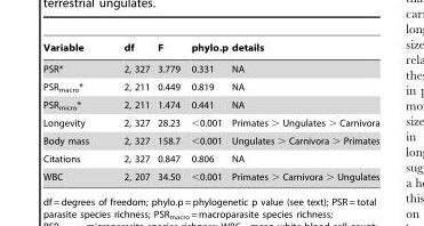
<table><thead><tr><td>Variable</td><td>df</td><td>F</td><td>phylo.p</td><td>details</td></tr></thead><tbody><tr><td>PSR*</td><td>2, 327</td><td>3.779</td><td>0.331</td><td>NA</td></tr><tr><td>PSR<sub>macro</sub>*</td><td>2, 211</td><td>0.449</td><td>0.819</td><td>NA</td></tr><tr><td>PSR<sub>micro</sub>*</td><td>2, 211</td><td>1.474</td><td>0.441</td><td>NA</td></tr><tr><td>Longevity</td><td>2, 327</td><td>28.23</td><td>&lt;0.001</td><td>Primates &gt; Ungulates &gt; Carnivora</td></tr><tr><td>Body mass</td><td>2, 327</td><td>158.7</td><td>&lt;0.001</td><td>Ungulates &gt; Carnivora &gt; Primates</td></tr><tr><td>Citations</td><td>2, 327</td><td>0.847</td><td>0.806</td><td>NA</td></tr><tr><td>WBC</td><td>2, 207</td><td>34.50</td><td>&lt;0.001</td><td>Primates &gt; Carnivora &gt; Ungulates</td></tr></tbody></table>